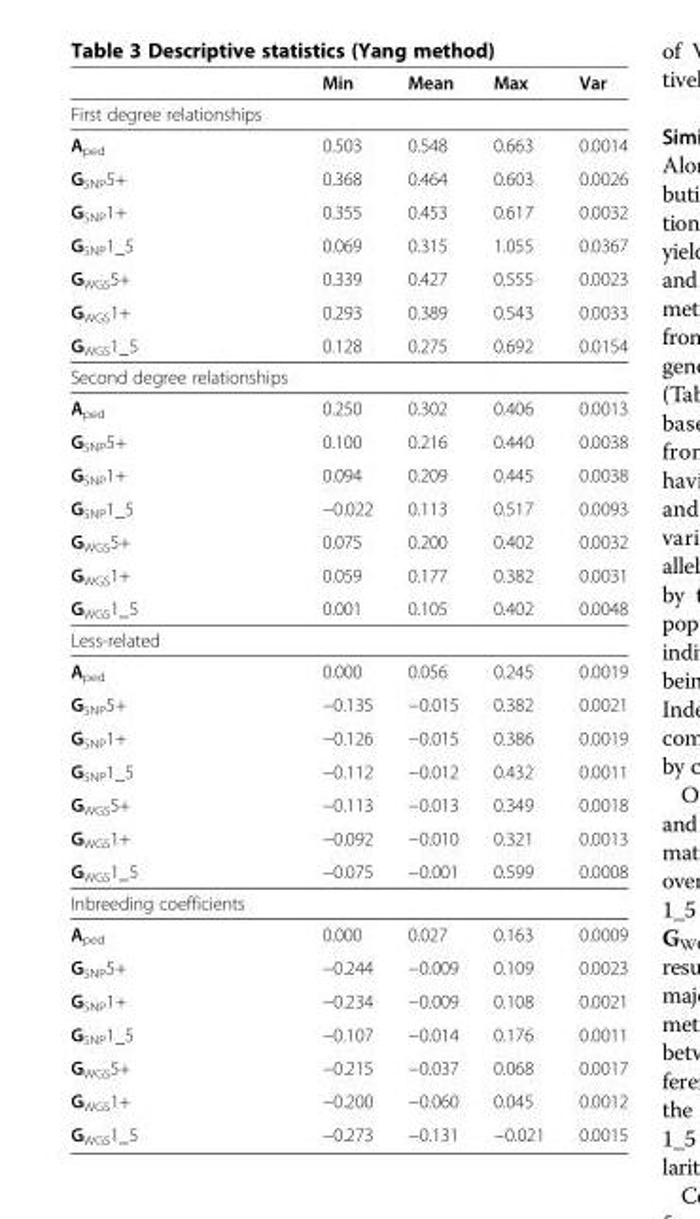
<table><thead><tr><td></td><td>Min</td><td>Mean</td><td>Max</td><td>Var</td></tr></thead><tbody><tr><td colspan="5">First degree relationships</td></tr><tr><td>A<sub>ped</sub></td><td>0.503</td><td>0.548</td><td>0.663</td><td>0.0014</td></tr><tr><td>G<sub>SNP</sub>5+</td><td>0.368</td><td>0.464</td><td>0.603</td><td>0.0026</td></tr><tr><td>G<sub>SNP</sub>1+</td><td>0.355</td><td>0.453</td><td>0.617</td><td>0.0032</td></tr><tr><td>G<sub>SNP</sub>1_5</td><td>0.069</td><td>0.315</td><td>1.055</td><td>0.0367</td></tr><tr><td>G<sub>WGS</sub>5+</td><td>0.339</td><td>0.427</td><td>0.555</td><td>0.0023</td></tr><tr><td>G<sub>WGS</sub>1+</td><td>0.293</td><td>0.389</td><td>0.543</td><td>0.0033</td></tr><tr><td>G<sub>WGS</sub>1_5</td><td>0.128</td><td>0.275</td><td>0.692</td><td>0.0154</td></tr><tr><td colspan="5">Second degree relationships</td></tr><tr><td>A<sub>ped</sub></td><td>0.250</td><td>0.302</td><td>0.406</td><td>0.0013</td></tr><tr><td>G<sub>SNP</sub>5+</td><td>0.100</td><td>0.216</td><td>0.440</td><td>0.0038</td></tr><tr><td>G<sub>SNP</sub>1+</td><td>0.094</td><td>0.209</td><td>0.445</td><td>0.0038</td></tr><tr><td>G<sub>SNP</sub>1_5</td><td>−0.022</td><td>0.113</td><td>0.517</td><td>0.0093</td></tr><tr><td>G<sub>WGS</sub>5+</td><td>0.075</td><td>0.200</td><td>0.402</td><td>0.0032</td></tr><tr><td>G<sub>WGS</sub>1+</td><td>0.059</td><td>0.177</td><td>0.382</td><td>0.0031</td></tr><tr><td>G<sub>WGS</sub>1_5</td><td>0.001</td><td>0.105</td><td>0.402</td><td>0.0048</td></tr><tr><td colspan="5">Less-related</td></tr><tr><td>A<sub>ped</sub></td><td>0.000</td><td>0.056</td><td>0.245</td><td>0.0019</td></tr><tr><td>G<sub>SNP</sub>5+</td><td>−0.135</td><td>−0.015</td><td>0.382</td><td>0.0021</td></tr><tr><td>G<sub>SNP</sub>1+</td><td>−0.126</td><td>−0.015</td><td>0.386</td><td>0.0019</td></tr><tr><td>G<sub>SNP</sub>1_5</td><td>−0.112</td><td>−0.012</td><td>0.432</td><td>0.0011</td></tr><tr><td>G<sub>WGS</sub>5+</td><td>−0.113</td><td>−0.013</td><td>0.349</td><td>0.0018</td></tr><tr><td>G<sub>WGS</sub>1+</td><td>−0.092</td><td>−0.010</td><td>0.321</td><td>0.0013</td></tr><tr><td>G<sub>WGS</sub>1_5</td><td>−0.075</td><td>−0.001</td><td>0.599</td><td>0.0008</td></tr><tr><td colspan="5">Inbreeding coefficients</td></tr><tr><td>A<sub>ped</sub></td><td>0.000</td><td>0.027</td><td>0.163</td><td>0.0009</td></tr><tr><td>G<sub>SNP</sub>5+</td><td>−0.244</td><td>−0.009</td><td>0.109</td><td>0.0023</td></tr><tr><td>G<sub>SNP</sub>1+</td><td>−0.234</td><td>−0.009</td><td>0.108</td><td>0.0021</td></tr><tr><td>G<sub>SNP</sub>1_5</td><td>−0.107</td><td>−0.014</td><td>0.176</td><td>0.0011</td></tr><tr><td>G<sub>WGS</sub>5+</td><td>−0.215</td><td>−0.037</td><td>0.068</td><td>0.0017</td></tr><tr><td>G<sub>WGS</sub>1+</td><td>−0.200</td><td>−0.060</td><td>0.045</td><td>0.0012</td></tr><tr><td>G<sub>WGS</sub>1_5</td><td>−0.273</td><td>−0.131</td><td>−0.021</td><td>0.0015</td></tr></tbody></table>